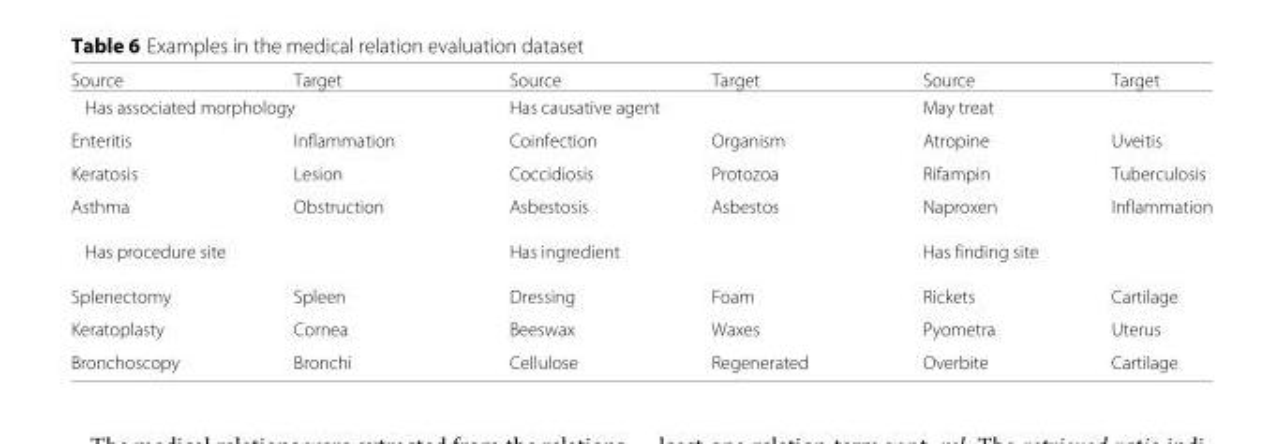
<table><thead><tr><td>Source</td><td>Target</td><td>Source</td><td>Target</td><td>Source</td><td>Target</td></tr></thead><tbody><tr><td colspan="2">Has associated morphology</td><td colspan="2">Has causative agent</td><td colspan="2">May treat</td></tr><tr><td>Enteritis</td><td>Inflammation</td><td>Coinfection</td><td>Organism</td><td>Atropine</td><td>Uveitis</td></tr><tr><td>Keratosis</td><td>Lesion</td><td>Coccidiosis</td><td>Protozoa</td><td>Rifampin</td><td>Tuberculosis</td></tr><tr><td>Asthma</td><td>Obstruction</td><td>Asbestosis</td><td>Asbestos</td><td>Naproxen</td><td>Inflammation</td></tr><tr><td colspan="2">Has procedure site</td><td colspan="2">Has ingredient</td><td colspan="2">Has finding site</td></tr><tr><td>Splenectomy</td><td>Spleen</td><td>Dressing</td><td>Foam</td><td>Rickets</td><td>Cartilage</td></tr><tr><td>Keratoplasty</td><td>Cornea</td><td>Beeswax</td><td>Waxes</td><td>Pyometra</td><td>Uterus</td></tr><tr><td>Bronchoscopy</td><td>Bronchi</td><td>Cellulose</td><td>Regenerated</td><td>Overbite</td><td>Cartilage</td></tr></tbody></table>